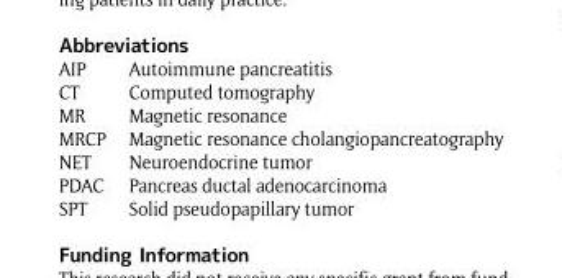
<table><tbody><tr><td>AIP</td><td>Autoimmune pancreatitis</td></tr><tr><td>CT</td><td>Computed tomography</td></tr><tr><td>MR</td><td>Magnetic resonance</td></tr><tr><td>MRCP</td><td>Magnetic resonance cholangiopancreatography</td></tr><tr><td>NET</td><td>Neuroendocrine tumor</td></tr><tr><td>PDAC</td><td>Pancreas ductal adenocarcinoma</td></tr><tr><td>SPT</td><td>Solid pseudopapillary tumor</td></tr></tbody></table>